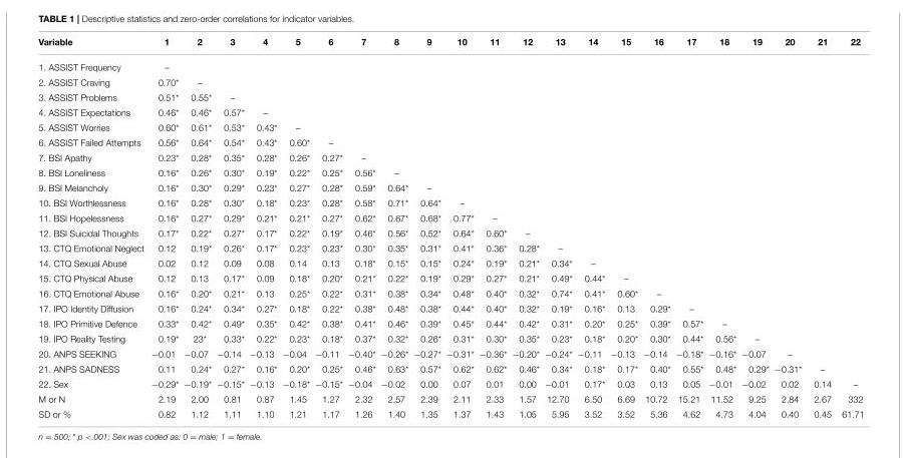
<table><thead><tr><td>Variable</td><td>1</td><td>2</td><td>3</td><td>4</td><td>5</td><td>6</td><td>7</td><td>8</td><td>9</td><td>10</td><td>11</td><td>12</td><td>13</td><td>14</td><td>15</td><td>16</td><td>17</td><td>18</td><td>19</td><td>20</td><td>21</td><td>22</td></tr></thead><tbody><tr><td>1. ASSIST Frequency</td><td>–</td><td></td><td></td><td></td><td></td><td></td><td></td><td></td><td></td><td></td><td></td><td></td><td></td><td></td><td></td><td></td><td></td><td></td><td></td><td></td><td></td><td></td></tr><tr><td>2. ASSIST Craving</td><td>0.70*</td><td>–</td><td></td><td></td><td></td><td></td><td></td><td></td><td></td><td></td><td></td><td></td><td></td><td></td><td></td><td></td><td></td><td></td><td></td><td></td><td></td><td></td></tr><tr><td>3. ASSIST Problems</td><td>0.51*</td><td>0.55*</td><td>–</td><td></td><td></td><td></td><td></td><td></td><td></td><td></td><td></td><td></td><td></td><td></td><td></td><td></td><td></td><td></td><td></td><td></td><td></td><td></td></tr><tr><td>4. ASSIST Expectations</td><td>0.46*</td><td>0.46*</td><td>0.57*</td><td>–</td><td></td><td></td><td></td><td></td><td></td><td></td><td></td><td></td><td></td><td></td><td></td><td></td><td></td><td></td><td></td><td></td><td></td><td></td></tr><tr><td>5. ASSIST Worries</td><td>0.60*</td><td>0.61*</td><td>0.53*</td><td>0.43*</td><td>–</td><td></td><td></td><td></td><td></td><td></td><td></td><td></td><td></td><td></td><td></td><td></td><td></td><td></td><td></td><td></td><td></td><td></td></tr><tr><td>6. ASSIST Failed Attempts</td><td>0.56*</td><td>0.64*</td><td>0.54*</td><td>0.43*</td><td>0.60*</td><td>–</td><td></td><td></td><td></td><td></td><td></td><td></td><td></td><td></td><td></td><td></td><td></td><td></td><td></td><td></td><td></td><td></td></tr><tr><td>7. BSI Apathy</td><td>0.23*</td><td>0.28*</td><td>0.35*</td><td>0.28*</td><td>0.26*</td><td>0.27*</td><td>–</td><td></td><td></td><td></td><td></td><td></td><td></td><td></td><td></td><td></td><td></td><td></td><td></td><td></td><td></td><td></td></tr><tr><td>8. BSI Loneliness</td><td>0.16*</td><td>0.26*</td><td>0.30*</td><td>0.19*</td><td>0.22*</td><td>0.25*</td><td>0.56*</td><td>–</td><td></td><td></td><td></td><td></td><td></td><td></td><td></td><td></td><td></td><td></td><td></td><td></td><td></td><td></td></tr><tr><td>9. BSI Melancholy</td><td>0.16*</td><td>0.30*</td><td>0.29*</td><td>0.23*</td><td>0.27*</td><td>0.28*</td><td>0.59*</td><td>0.64*</td><td>–</td><td></td><td></td><td></td><td></td><td></td><td></td><td></td><td></td><td></td><td></td><td></td><td></td><td></td></tr><tr><td>10. BSI Worthlessness</td><td>0.16*</td><td>0.28*</td><td>0.30*</td><td>0.18*</td><td>0.23*</td><td>0.28*</td><td>0.58*</td><td>0.71*</td><td>0.64*</td><td>–</td><td></td><td></td><td></td><td></td><td></td><td></td><td></td><td></td><td></td><td></td><td></td><td></td></tr><tr><td>11. BSI Hopelessness</td><td>0.16*</td><td>0.27*</td><td>0.29*</td><td>0.21*</td><td>0.21*</td><td>0.27*</td><td>0.62*</td><td>0.67*</td><td>0.68*</td><td>0.77*</td><td>–</td><td></td><td></td><td></td><td></td><td></td><td></td><td></td><td></td><td></td><td></td><td></td></tr><tr><td>12. BSI Suicidal Thoughts</td><td>0.17*</td><td>0.22*</td><td>0.27*</td><td>0.17*</td><td>0.22*</td><td>0.19*</td><td>0.46*</td><td>0.56*</td><td>0.52*</td><td>0.64*</td><td>0.60*</td><td>–</td><td></td><td></td><td></td><td></td><td></td><td></td><td></td><td></td><td></td><td></td></tr><tr><td>13. CTQ Emotional Neglect</td><td>0.12</td><td>0.19*</td><td>0.26*</td><td>0.17*</td><td>0.23*</td><td>0.23*</td><td>0.30*</td><td>0.35*</td><td>0.31*</td><td>0.41*</td><td>0.36*</td><td>0.28*</td><td>–</td><td></td><td></td><td></td><td></td><td></td><td></td><td></td><td></td><td></td></tr><tr><td>14. CTQ Sexual Abuse</td><td>0.02</td><td>0.12</td><td>0.09</td><td>0.08</td><td>0.14</td><td>0.13</td><td>0.18*</td><td>0.15*</td><td>0.15*</td><td>0.24*</td><td>0.19*</td><td>0.21*</td><td>0.34*</td><td>–</td><td></td><td></td><td></td><td></td><td></td><td></td><td></td><td></td></tr><tr><td>15. CTQ Physical Abuse</td><td>0.12</td><td>0.13</td><td>0.17*</td><td>0.09</td><td>0.18*</td><td>0.20*</td><td>0.21*</td><td>0.22*</td><td>0.19*</td><td>0.29*</td><td>0.27*</td><td>0.21*</td><td>0.49*</td><td>0.44*</td><td>–</td><td></td><td></td><td></td><td></td><td></td><td></td><td></td></tr><tr><td>16. CTQ Emotional Abuse</td><td>0.16*</td><td>0.20*</td><td>0.21*</td><td>0.13</td><td>0.25*</td><td>0.22*</td><td>0.31*</td><td>0.38*</td><td>0.34*</td><td>0.48*</td><td>0.40*</td><td>0.32*</td><td>0.74*</td><td>0.41*</td><td>0.60*</td><td>–</td><td></td><td></td><td></td><td></td><td></td><td></td></tr><tr><td>17. IPO Identity Diffusion</td><td>0.16*</td><td>0.24*</td><td>0.34*</td><td>0.27*</td><td>0.18*</td><td>0.22*</td><td>0.38*</td><td>0.48*</td><td>0.38*</td><td>0.44*</td><td>0.40*</td><td>0.32*</td><td>0.19*</td><td>0.16*</td><td>0.13</td><td>0.29*</td><td>–</td><td></td><td></td><td></td><td></td><td></td></tr><tr><td>18. IPO Primitive Defence</td><td>0.33*</td><td>0.42*</td><td>0.49*</td><td>0.35*</td><td>0.42*</td><td>0.38*</td><td>0.41*</td><td>0.46*</td><td>0.39*</td><td>0.45*</td><td>0.44*</td><td>0.42*</td><td>0.31*</td><td>0.20*</td><td>0.25*</td><td>0.39*</td><td>0.57*</td><td>–</td><td></td><td></td><td></td><td></td></tr><tr><td>19. IPO Reality Testing</td><td>0.19*</td><td>23*</td><td>0.33*</td><td>0.22*</td><td>0.23*</td><td>0.18*</td><td>0.37*</td><td>0.32*</td><td>0.26*</td><td>0.31*</td><td>0.30*</td><td>0.35*</td><td>0.23*</td><td>0.18*</td><td>0.20*</td><td>0.30*</td><td>0.44*</td><td>0.56*</td><td>–</td><td></td><td></td><td></td></tr><tr><td>20. ANPS SEEKING</td><td>−0.01</td><td>−0.07</td><td>−0.14</td><td>−0.13</td><td>−0.04</td><td>−0.11</td><td>−0.40*</td><td>−0.26*</td><td>−0.27*</td><td>−0.31*</td><td>−0.36*</td><td>−0.20*</td><td>−0.24*</td><td>−0.11</td><td>−0.13</td><td>−0.14</td><td>−0.18*</td><td>−0.16*</td><td>−0.07</td><td>–</td><td></td><td></td></tr><tr><td>21. ANPS SADNESS</td><td>0.11</td><td>0.24*</td><td>0.27*</td><td>0.16*</td><td>0.20*</td><td>0.25*</td><td>0.46*</td><td>0.63*</td><td>0.57*</td><td>0.62*</td><td>0.62*</td><td>0.46*</td><td>0.34*</td><td>0.18*</td><td>0.17*</td><td>0.40*</td><td>0.55*</td><td>0.48*</td><td>0.29*</td><td>−0.31*</td><td>–</td><td></td></tr><tr><td>22. Sex</td><td>−0.29*</td><td>−0.19*</td><td>−0.15*</td><td>−0.13</td><td>−0.18*</td><td>−0.15*</td><td>−0.04</td><td>−0.02</td><td>0.00</td><td>0.07</td><td>0.01</td><td>0.00</td><td>−0.01</td><td>0.17*</td><td>0.03</td><td>0.13</td><td>0.05</td><td>−0.01</td><td>−0.02</td><td>0.02</td><td>0.14</td><td>–</td></tr><tr><td>M or N</td><td>2.19</td><td>2.00</td><td>0.81</td><td>0.87</td><td>1.45</td><td>1.27</td><td>2.32</td><td>2.57</td><td>2.39</td><td>2.11</td><td>2.33</td><td>1.57</td><td>12.70</td><td>6.50</td><td>6.69</td><td>10.72</td><td>15.21</td><td>11.52</td><td>9.25</td><td>2.84</td><td>2.67</td><td>332</td></tr><tr><td>SD or %</td><td>0.82</td><td>1.12</td><td>1.11</td><td>1.10</td><td>1.21</td><td>1.17</td><td>1.26</td><td>1.40</td><td>1.35</td><td>1.37</td><td>1.43</td><td>1.05</td><td>5.95</td><td>3.52</td><td>3.52</td><td>5.36</td><td>4.62</td><td>4.73</td><td>4.04</td><td>0.40</td><td>0.45</td><td>61.71</td></tr></tbody></table>